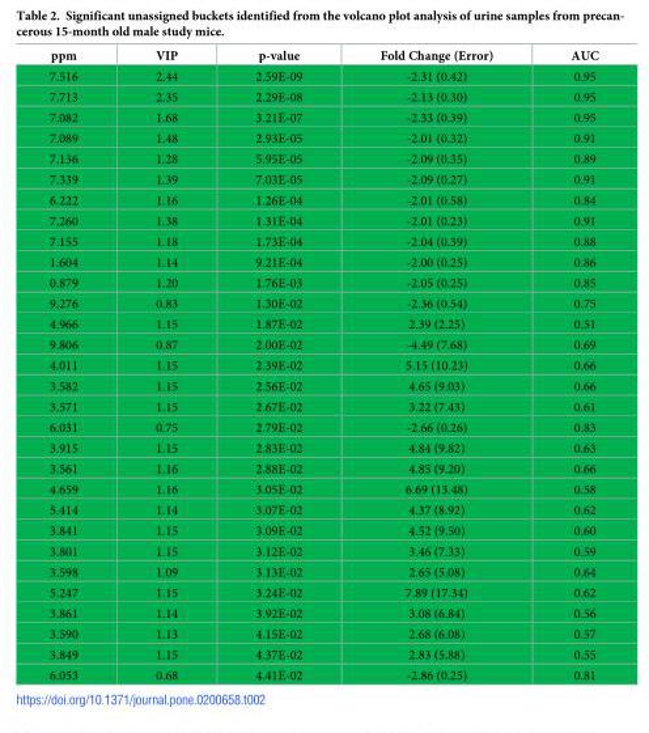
<table><thead><tr><td>ppm</td><td>VIP</td><td>p-value</td><td>Fold Change (Error)</td><td>AUC</td></tr></thead><tbody><tr><td>7.516</td><td>2.44</td><td>2.59E-09</td><td>-2.31 (0.42)</td><td>0.95</td></tr><tr><td>7.713</td><td>2.35</td><td>2.29E-08</td><td>-2.13 (0.30)</td><td>0.95</td></tr><tr><td>7.082</td><td>1.68</td><td>3.21E-07</td><td>-2.33 (0.39)</td><td>0.95</td></tr><tr><td>7.089</td><td>1.48</td><td>2.93E-05</td><td>-2.01 (0.32)</td><td>0.91</td></tr><tr><td>7.136</td><td>1.28</td><td>5.95E-05</td><td>-2.09 (0.35)</td><td>0.89</td></tr><tr><td>7.339</td><td>1.39</td><td>7.03E-05</td><td>-2.09 (0.27)</td><td>0.91</td></tr><tr><td>6.222</td><td>1.16</td><td>1.26E-04</td><td>-2.01 (0.58)</td><td>0.84</td></tr><tr><td>7.260</td><td>1.38</td><td>1.31E-04</td><td>-2.01 (0.23)</td><td>0.91</td></tr><tr><td>7.155</td><td>1.18</td><td>1.73E-04</td><td>-2.04 (0.39)</td><td>0.88</td></tr><tr><td>1.604</td><td>1.14</td><td>9.21E-04</td><td>-2.00 (0.25)</td><td>0.86</td></tr><tr><td>0.879</td><td>1.20</td><td>1.76E-03</td><td>-2.05 (0.25)</td><td>0.85</td></tr><tr><td>9.276</td><td>0.83</td><td>1.30E-02</td><td>-2.36 (0.54)</td><td>0.75</td></tr><tr><td>4.966</td><td>1.15</td><td>1.87E-02</td><td>2.39 (2.25)</td><td>0.51</td></tr><tr><td>9.806</td><td>0.87</td><td>2.00E-02</td><td>-4.49 (7.68)</td><td>0.69</td></tr><tr><td>4.011</td><td>1.15</td><td>2.39E-02</td><td>5.15 (10.23)</td><td>0.66</td></tr><tr><td>3.582</td><td>1.15</td><td>2.56E-02</td><td>4.65 (9.03)</td><td>0.66</td></tr><tr><td>3.571</td><td>1.15</td><td>2.67E-02</td><td>3.22 (7.43)</td><td>0.61</td></tr><tr><td>6.031</td><td>0.75</td><td>2.79E-02</td><td>-2.66 (0.26)</td><td>0.83</td></tr><tr><td>3.915</td><td>1.15</td><td>2.83E-02</td><td>4.84 (9.82)</td><td>0.63</td></tr><tr><td>3.561</td><td>1.16</td><td>2.88E-02</td><td>4.85 (9.20)</td><td>0.66</td></tr><tr><td>4.659</td><td>1.16</td><td>3.05E-02</td><td>6.69 (13.48)</td><td>0.58</td></tr><tr><td>5.414</td><td>1.14</td><td>3.07E-02</td><td>4.37 (8.92)</td><td>0.62</td></tr><tr><td>3.841</td><td>1.15</td><td>3.09E-02</td><td>4.52 (9.50)</td><td>0.60</td></tr><tr><td>3.801</td><td>1.15</td><td>3.12E-02</td><td>3.46 (7.33)</td><td>0.59</td></tr><tr><td>3.598</td><td>1.09</td><td>3.13E-02</td><td>2.65 (5.08)</td><td>0.64</td></tr><tr><td>5.247</td><td>1.15</td><td>3.24E-02</td><td>7.89 (17.34)</td><td>0.62</td></tr><tr><td>3.861</td><td>1.14</td><td>3.92E-02</td><td>3.08 (6.84)</td><td>0.56</td></tr><tr><td>3.590</td><td>1.13</td><td>4.15E-02</td><td>2.68 (6.08)</td><td>0.57</td></tr><tr><td>3.849</td><td>1.15</td><td>4.37E-02</td><td>2.83 (5.88)</td><td>0.55</td></tr><tr><td>6.053</td><td>0.68</td><td>4.41E-02</td><td>-2.86 (0.25)</td><td>0.81</td></tr></tbody></table>